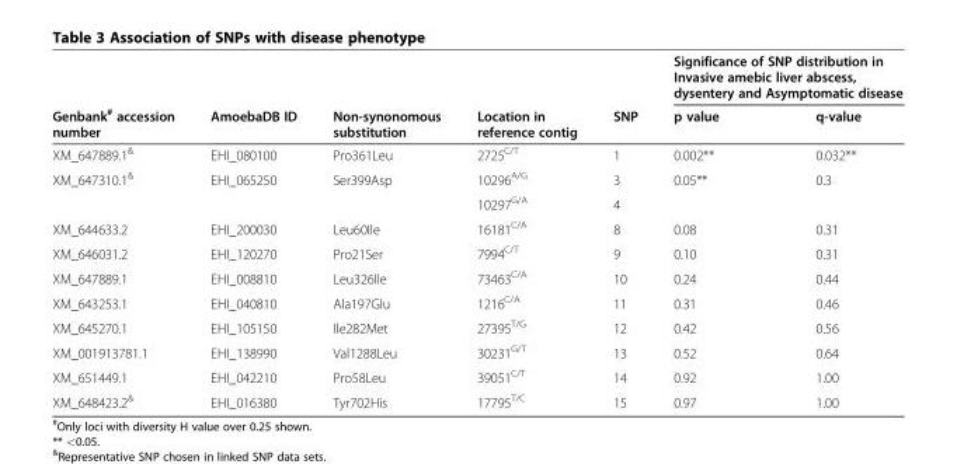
<table><thead><tr><td rowspan="2">Genbank<sup>#</sup> accession number</td><td rowspan="2">AmoebaDB ID</td><td rowspan="2">Non-synonomous substitution</td><td rowspan="2">Location in reference contig</td><td rowspan="2">SNP</td><td colspan="2">Significance of SNP distribution in Invasive amebic liver abscess, dysentery and Asymptomatic disease</td></tr><tr><td>p value</td><td>q-value</td></tr></thead><tbody><tr><td>XM_647889.1<sup>&amp;</sup></td><td>EHI_080100</td><td>Pro361Leu</td><td>2725<sup>C/T</sup></td><td>1</td><td>0.002**</td><td>0.032**</td></tr><tr><td rowspan="2">XM_647310.1<sup>&amp;</sup></td><td rowspan="2">EHI_065250</td><td rowspan="2">Ser399Asp</td><td>10296<sup>A/G</sup></td><td>3</td><td>0.05**</td><td>0.3</td></tr><tr><td>10297<sup>G/A</sup></td><td>4</td><td></td><td></td></tr><tr><td>XM_644633.2</td><td>EHI_200030</td><td>Leu60Ile</td><td>16181<sup>C/A</sup></td><td>8</td><td>0.08</td><td>0.31</td></tr><tr><td>XM_646031.2</td><td>EHI_120270</td><td>Pro21Ser</td><td>7994<sup>C/T</sup></td><td>9</td><td>0.10</td><td>0.31</td></tr><tr><td>XM_647889.1</td><td>EHI_008810</td><td>Leu326Ile</td><td>73463<sup>C/A</sup></td><td>10</td><td>0.24</td><td>0.44</td></tr><tr><td>XM_643253.1</td><td>EHI_040810</td><td>Ala197Glu</td><td>1216<sup>C/A</sup></td><td>11</td><td>0.31</td><td>0.46</td></tr><tr><td>XM_645270.1</td><td>EHI_105150</td><td>Ile282Met</td><td>27395<sup>T/G</sup></td><td>12</td><td>0.42</td><td>0.56</td></tr><tr><td>XM_001913781.1</td><td>EHI_138990</td><td>Val1288Leu</td><td>30231<sup>G/T</sup></td><td>13</td><td>0.52</td><td>0.64</td></tr><tr><td>XM_651449.1</td><td>EHI_042210</td><td>Pro58Leu</td><td>39051<sup>C/T</sup></td><td>14</td><td>0.92</td><td>1.00</td></tr><tr><td>XM_648423.2<sup>&amp;</sup></td><td>EHI_016380</td><td>Tyr702His</td><td>17795<sup>T/C</sup></td><td>15</td><td>0.97</td><td>1.00</td></tr></tbody></table>